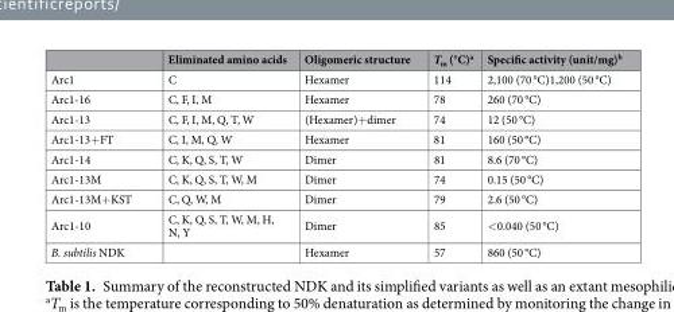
<table><thead><tr><td></td><td>Eliminated amino acids</td><td>Oligomeric structure</td><td>T<sub>m</sub> (°C)<sup>a</sup></td><td>Specific activity (unit/mg)<sup>b</sup></td></tr></thead><tbody><tr><td>Arc1</td><td>C</td><td>Hexamer</td><td>114</td><td>2,100 (70 °C)1,200 (50 °C)</td></tr><tr><td>Arc1-16</td><td>C, F, I, M</td><td>Hexamer</td><td>78</td><td>260 (70 °C)</td></tr><tr><td>Arc1-13</td><td>C, F, I, M, Q, T, W</td><td>(Hexamer)+dimer</td><td>74</td><td>12 (50 °C)</td></tr><tr><td>Arc1-13+FT</td><td>C, I, M, Q, W</td><td>Hexamer</td><td>81</td><td>160 (50 °C)</td></tr><tr><td>Arc1-14</td><td>C, K, Q, S, T, W</td><td>Dimer</td><td>81</td><td>8.6 (70 °C)</td></tr><tr><td>Arc1-13M</td><td>C, K, Q, S, T, W, M</td><td>Dimer</td><td>74</td><td>0.15 (50 °C)</td></tr><tr><td>Arc1-13M+KST</td><td>C, Q, W, M</td><td>Dimer</td><td>79</td><td>2.6 (50 °C)</td></tr><tr><td>Arc1-10</td><td>C, K, Q, S, T, W, M, H, N, Y</td><td>Dimer</td><td>85</td><td>&lt;0.040 (50 °C)</td></tr><tr><td>B. subtilis NDK</td><td></td><td>Hexamer</td><td>57</td><td>860 (50 °C)</td></tr></tbody></table>